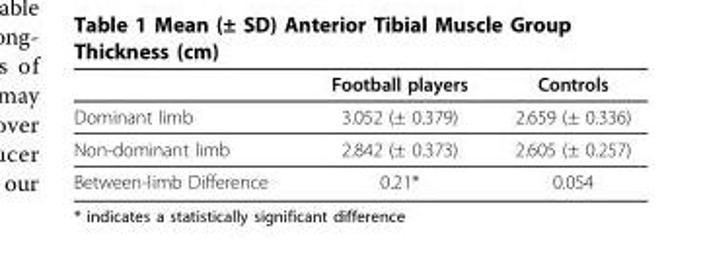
<table><thead><tr><td></td><td>Football players</td><td>Controls</td></tr></thead><tbody><tr><td>Dominant limb</td><td>3.052 (± 0.379)</td><td>2.659 (± 0.336)</td></tr><tr><td>Non-dominant limb</td><td>2.842 (± 0.373)</td><td>2.605 (± 0.257)</td></tr><tr><td>Between-limb Difference</td><td>0.21*</td><td>0.054</td></tr></tbody></table>